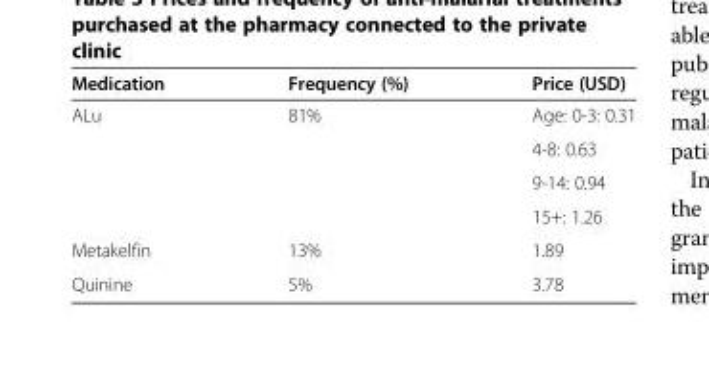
<table><thead><tr><td>Medication</td><td>Frequency (%)</td><td>Price (USD)</td></tr></thead><tbody><tr><td rowspan="4">ALu</td><td rowspan="4">81%</td><td>Age: 0-3: 0.31</td></tr><tr><td>4-8: 0.63</td></tr><tr><td>9-14: 0.94</td></tr><tr><td>15+: 1.26</td></tr><tr><td>Metakelfin</td><td>13%</td><td>1.89</td></tr><tr><td>Quinine</td><td>5%</td><td>3.78</td></tr></tbody></table>